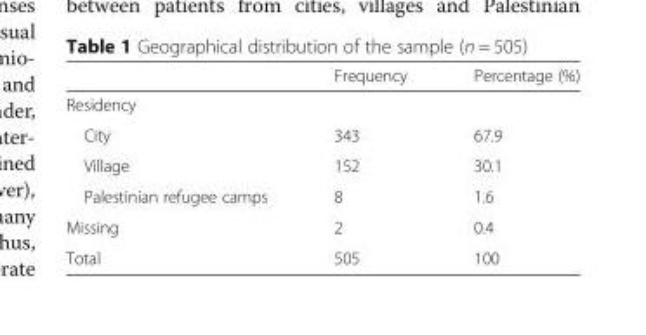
<table><thead><tr><td></td><td>Frequency</td><td>Percentage (%)</td></tr></thead><tbody><tr><td colspan="3">Residency</td></tr><tr><td>City</td><td>343</td><td>67.9</td></tr><tr><td>Village</td><td>152</td><td>30.1</td></tr><tr><td>Palestinian refugee camps</td><td>8</td><td>1.6</td></tr><tr><td>Missing</td><td>2</td><td>0.4</td></tr><tr><td>Total</td><td>505</td><td>100</td></tr></tbody></table>